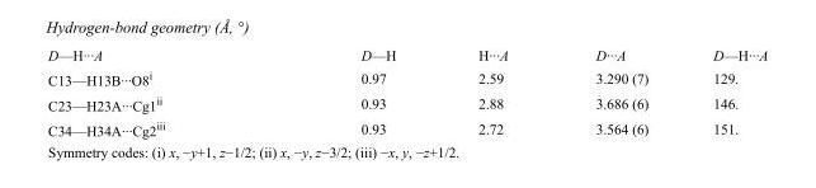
<table><tbody><tr><td>D—H···A</td><td>D—H</td><td>H···A</td><td>D···A</td><td>D—H···A</td></tr><tr><td>C13—H13B···O8<sup>i</sup></td><td>0.97</td><td>2.59</td><td>3.290 (7)</td><td>129.</td></tr><tr><td>C23—H23A···Cg1<sup>ii</sup></td><td>0.93</td><td>2.88</td><td>3.686 (6)</td><td>146.</td></tr><tr><td>C34—H34A···Cg2<sup>iii</sup></td><td>0.93</td><td>2.72</td><td>3.564 (6)</td><td>151.</td></tr></tbody></table>